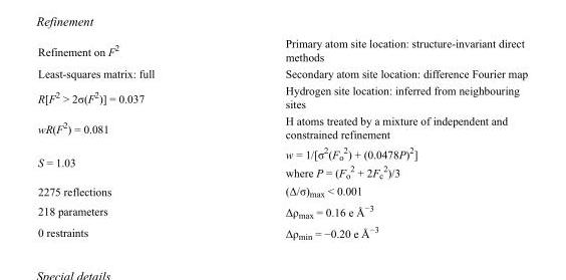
<table><tbody><tr><td>Refinement on F<sup>2</sup></td><td>Primary atom site location: structure-invariant direct methods</td></tr><tr><td>Least-squares matrix: full</td><td>Secondary atom site location: difference Fourier map</td></tr><tr><td>R[F<sup>2</sup> &gt; 2σ(F<sup>2</sup>)] = 0.037</td><td>Hydrogen site location: inferred from neighbouring sites</td></tr><tr><td>wR(F<sup>2</sup>) = 0.081</td><td>H atoms treated by a mixture of independent and constrained refinement</td></tr><tr><td>S = 1.03</td><td>w = 1/[σ<sup>2</sup>(F<sub>o</sub> <sup>2</sup>) + (0.0478P)<sup>2</sup>] where P = (F<sub>o</sub> <sup>2</sup> + 2F<sub>c</sub> <sup>2</sup>)/3</td></tr><tr><td>2275 reflections</td><td>(Δ/σ)<sub>max</sub> &lt; 0.001</td></tr><tr><td>218 parameters</td><td>Δρ<sub>max</sub> = 0.16 e Å<sup>−3</sup></td></tr><tr><td>0 restraints</td><td>Δρ<sub>min</sub> = −0.20 e Å<sup>−3</sup></td></tr></tbody></table>